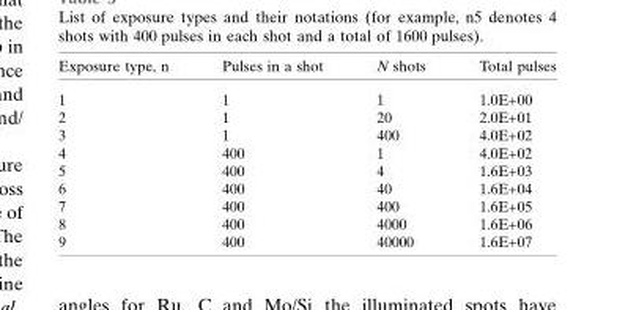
<table><thead><tr><td>Exposure type, n</td><td>Pulses in a shot</td><td>N shots</td><td>Total pulses</td></tr></thead><tbody><tr><td>1</td><td>1</td><td>1</td><td>1.0E+00</td></tr><tr><td>2</td><td>1</td><td>20</td><td>2.0E+01</td></tr><tr><td>3</td><td>1</td><td>400</td><td>4.0E+02</td></tr><tr><td>4</td><td>400</td><td>1</td><td>4.0E+02</td></tr><tr><td>5</td><td>400</td><td>4</td><td>1.6E+03</td></tr><tr><td>6</td><td>400</td><td>40</td><td>1.6E+04</td></tr><tr><td>7</td><td>400</td><td>400</td><td>1.6E+05</td></tr><tr><td>8</td><td>400</td><td>4000</td><td>1.6E+06</td></tr><tr><td>9</td><td>400</td><td>40000</td><td>1.6E+07</td></tr></tbody></table>